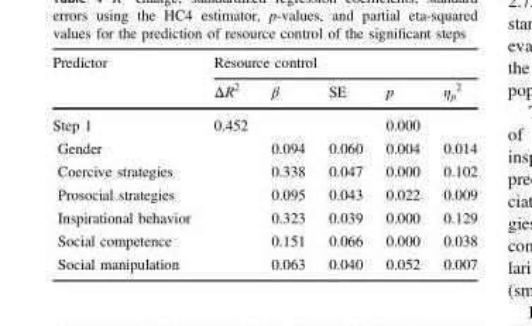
<table><thead><tr><td rowspan="2">Predictor</td><td colspan="5">Resource control</td></tr><tr><td>ΔR<sup>2</sup></td><td>β</td><td>SE</td><td>p</td><td>η<sub>p</sub> <sup>2</sup></td></tr></thead><tbody><tr><td>Step 1</td><td>0.452</td><td></td><td></td><td>0.000</td><td></td></tr><tr><td>Gender</td><td></td><td>0.094</td><td>0.060</td><td>0.004</td><td>0.014</td></tr><tr><td>Coercive strategies</td><td></td><td>0.338</td><td>0.047</td><td>0.000</td><td>0.102</td></tr><tr><td>Prosocial strategies</td><td></td><td>0.095</td><td>0.043</td><td>0.022</td><td>0.009</td></tr><tr><td>Inspirational behavior</td><td></td><td>0.323</td><td>0.039</td><td>0.000</td><td>0.129</td></tr><tr><td>Social competence</td><td></td><td>0.151</td><td>0.066</td><td>0.000</td><td>0.038</td></tr><tr><td>Social manipulation</td><td></td><td>0.063</td><td>0.040</td><td>0.052</td><td>0.007</td></tr></tbody></table>